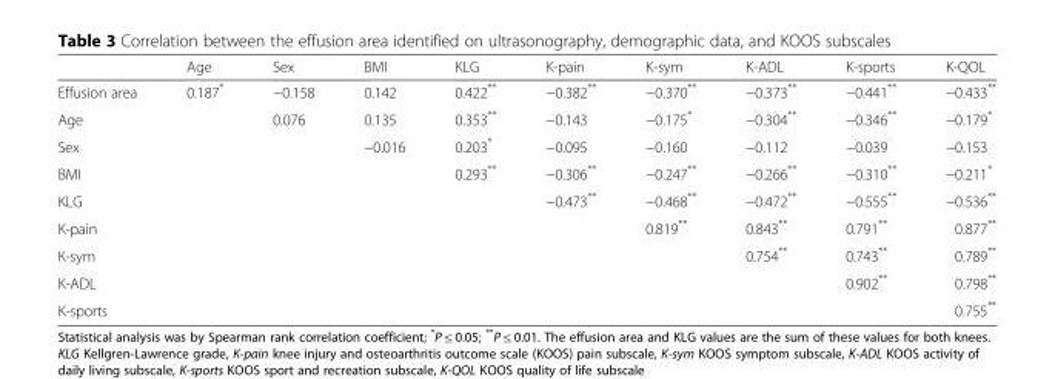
<table><thead><tr><td></td><td>Age</td><td>Sex</td><td>BMI</td><td>KLG</td><td>K-pain</td><td>K-sym</td><td>K-ADL</td><td>K-sports</td><td>K-QOL</td></tr></thead><tbody><tr><td>Effusion area</td><td>0.187*</td><td>−0.158</td><td>0.142</td><td>0.422**</td><td>−0.382**</td><td>−0.370**</td><td>−0.373**</td><td>−0.441**</td><td>−0.433**</td></tr><tr><td>Age</td><td></td><td>0.076</td><td>0.135</td><td>0.353**</td><td>−0.143</td><td>−0.175*</td><td>−0.304**</td><td>−0.346**</td><td>−0.179*</td></tr><tr><td>Sex</td><td></td><td></td><td>−0.016</td><td>0.203*</td><td>−0.095</td><td>−0.160</td><td>−0.112</td><td>−0.039</td><td>−0.153</td></tr><tr><td>BMI</td><td></td><td></td><td></td><td>0.293**</td><td>−0.306**</td><td>−0.247**</td><td>−0.266**</td><td>−0.310**</td><td>−0.211*</td></tr><tr><td>KLG</td><td></td><td></td><td></td><td></td><td>−0.473**</td><td>−0.468**</td><td>−0.472**</td><td>−0.555**</td><td>−0.536**</td></tr><tr><td>K-pain</td><td></td><td></td><td></td><td></td><td></td><td>0.819**</td><td>0.843**</td><td>0.791**</td><td>0.877**</td></tr><tr><td>K-sym</td><td></td><td></td><td></td><td></td><td></td><td></td><td>0.754**</td><td>0.743**</td><td>0.789**</td></tr><tr><td>K-ADL</td><td></td><td></td><td></td><td></td><td></td><td></td><td></td><td>0.902**</td><td>0.798**</td></tr><tr><td>K-sports</td><td></td><td></td><td></td><td></td><td></td><td></td><td></td><td></td><td>0.755**</td></tr></tbody></table>